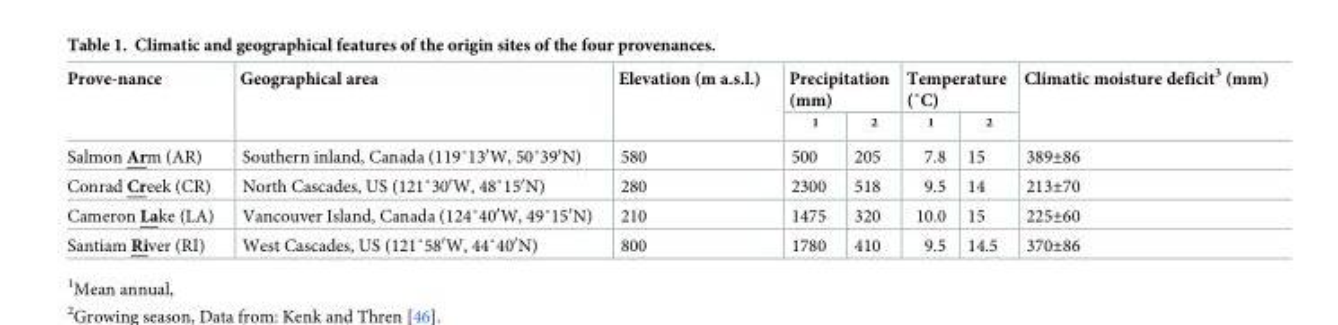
<table><thead><tr><td rowspan="2">Prove-nance</td><td rowspan="2">Geographical area</td><td rowspan="2">Elevation (m a.s.l.)</td><td colspan="2">Precipitation (mm)</td><td colspan="2">Temperature (˚C)</td><td rowspan="2">Climatic moisture deficit<sup>3</sup> (mm)</td></tr><tr><td><sup>1</sup></td><td><sup>2</sup></td><td><sup>1</sup></td><td><sup>2</sup></td></tr></thead><tbody><tr><td>Salmon Arm (AR)</td><td>Southern inland, Canada (119˚13′W, 50˚39′N)</td><td>580</td><td>500</td><td>205</td><td>7.8</td><td>15</td><td>389±86</td></tr><tr><td>Conrad Creek (CR)</td><td>North Cascades, US (121˚30′W, 48˚15′N)</td><td>280</td><td>2300</td><td>518</td><td>9.5</td><td>14</td><td>213±70</td></tr><tr><td>Cameron Lake (LA)</td><td>Vancouver Island, Canada (124˚40′W, 49˚15′N)</td><td>210</td><td>1475</td><td>320</td><td>10.0</td><td>15</td><td>225±60</td></tr><tr><td>Santiam River (RI)</td><td>West Cascades, US (121˚58′W, 44˚40′N)</td><td>800</td><td>1780</td><td>410</td><td>9.5</td><td>14.5</td><td>370±86</td></tr></tbody></table>